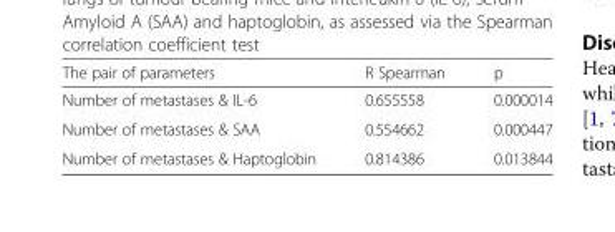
<table><thead><tr><td>The pair of parameters</td><td>R Spearman</td><td>p</td></tr></thead><tbody><tr><td>Number of metastases &amp; IL-6</td><td>0.655558</td><td>0.000014</td></tr><tr><td>Number of metastases &amp; SAA</td><td>0.554662</td><td>0.000447</td></tr><tr><td>Number of metastases &amp; Haptoglobin</td><td>0.814386</td><td>0.013844</td></tr></tbody></table>